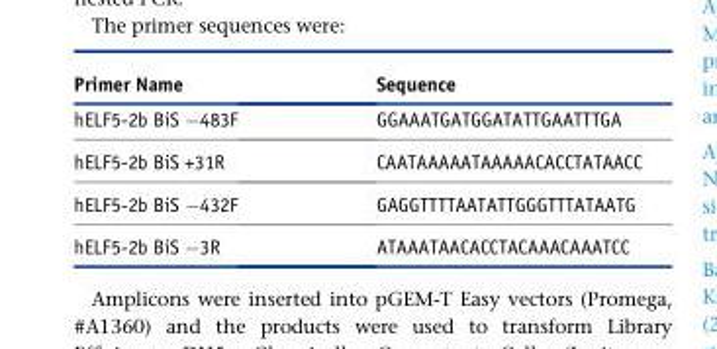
<table><thead><tr><td>Primer Name</td><td>Sequence</td></tr></thead><tbody><tr><td>hELF5-2b BiS −483F</td><td>GGAAATGATGGATATTGAATTTGA</td></tr><tr><td>hELF5-2b BiS +31R</td><td>CAATAAAAATAAAAACACCTATAACC</td></tr><tr><td>hELF5-2b BiS −432F</td><td>GAGGTTTTAATATTGGGTTTATAATG</td></tr><tr><td>hELF5-2b BiS −3R</td><td>ATAAATAACACCTACAAACAAATCC</td></tr></tbody></table>